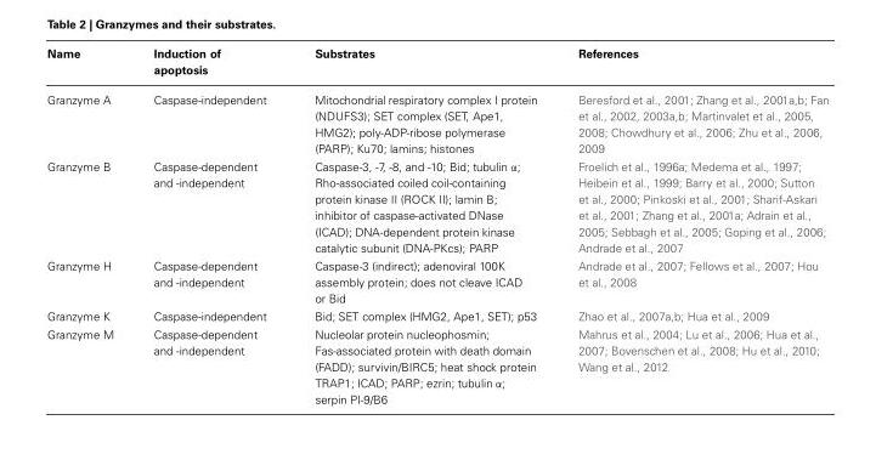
<table><thead><tr><td>Name</td><td>Induction of apoptosis</td><td>Substrates</td><td>References</td></tr></thead><tbody><tr><td>Granzyme A</td><td>Caspase-independent</td><td>Mitochondrial respiratory complex I protein (NDUFS3); SET complex (SET, Ape1, HMG2); poly-ADP-ribose polymerase (PARP); Ku70; lamins; histones</td><td>Beresford et al., 2001; Zhang et al., 2001a,b; Fan et al., 2002, 2003a,b; Martinvalet et al., 2005, 2008; Chowdhury et al., 2006; Zhu et al., 2006, 2009</td></tr><tr><td>Granzyme B</td><td>Caspase-dependent and -independent</td><td>Caspase-3, -7, -8, and -10; Bid; tubulin α; Rho-associated coiled coil-containing protein kinase II (ROCK II); lamin B; inhibitor of caspase-activated DNase (ICAD); DNA-dependent protein kinase catalytic subunit (DNA-PKcs); PARP</td><td>Froelich et al., 1996a; Medema et al., 1997; Heibein et al., 1999; Barry et al., 2000; Sutton et al., 2000; Pinkoski et al., 2001; Sharif-Askari et al., 2001; Zhang et al., 2001a; Adrain et al., 2005; Sebbagh et al., 2005; Goping et al., 2006; Andrade et al., 2007</td></tr><tr><td>Granzyme H</td><td>Caspase-dependent and -independent</td><td>Caspase-3 (indirect); adenoviral 100K assembly protein; does not cleave ICAD or Bid</td><td>Andrade et al., 2007; Fellows et al., 2007; Hou et al., 2008</td></tr><tr><td>Granzyme K</td><td>Caspase-independent</td><td>Bid; SET complex (HMG2, Ape1, SET); p53</td><td>Zhao et al., 2007a,b; Hua et al., 2009</td></tr><tr><td>Granzyme M</td><td>Caspase-dependent and -independent</td><td>Nucleolar protein nucleophosmin; Fas-associated protein with death domain (FADD); survivin/BIRC5; heat shock protein TRAP1; ICAD; PARP; ezrin; tubulin α; serpin PI-9/B6</td><td>Mahrus et al., 2004; Lu et al., 2006; Hua et al., 2007; Bovenschen et al., 2008; Hu et al., 2010; Wang et al., 2012</td></tr></tbody></table>